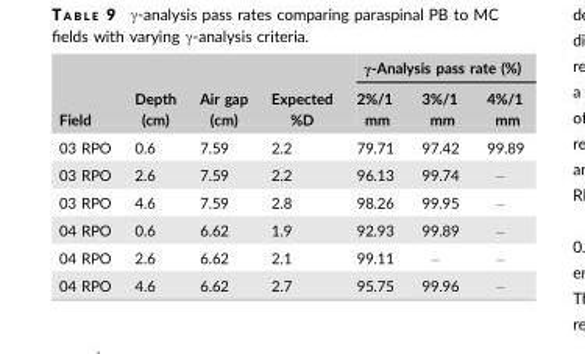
<table><thead><tr><td rowspan="2">Field</td><td rowspan="2">Depth (cm)</td><td rowspan="2">Air gap (cm)</td><td rowspan="2">Expected %D</td><td colspan="3">γ-Analysis pass rate (%)</td></tr><tr><td>2%/1 mm</td><td>3%/1 mm</td><td>4%/1 mm</td></tr></thead><tbody><tr><td>03 RPO</td><td>0.6</td><td>7.59</td><td>2.2</td><td>79.71</td><td>97.42</td><td>99.89</td></tr><tr><td>03 RPO</td><td>2.6</td><td>7.59</td><td>2.2</td><td>96.13</td><td>99.74</td><td>–</td></tr><tr><td>03 RPO</td><td>4.6</td><td>7.59</td><td>2.8</td><td>98.26</td><td>99.95</td><td>–</td></tr><tr><td>04 RPO</td><td>0.6</td><td>6.62</td><td>1.9</td><td>92.93</td><td>99.89</td><td>–</td></tr><tr><td>04 RPO</td><td>2.6</td><td>6.62</td><td>2.1</td><td>99.11</td><td>–</td><td>–</td></tr><tr><td>04 RPO</td><td>4.6</td><td>6.62</td><td>2.7</td><td>95.75</td><td>99.96</td><td>–</td></tr></tbody></table>